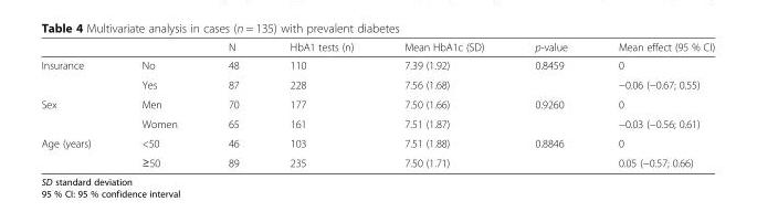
<table><thead><tr><td></td><td></td><td>N</td><td>HbA1 tests (n)</td><td>Mean HbA1c (SD)</td><td>p-value</td><td>Mean effect (95 % CI)</td></tr></thead><tbody><tr><td rowspan="2">Insurance</td><td>No</td><td>48</td><td>110</td><td>7.39 (1.92)</td><td rowspan="2">0.8459</td><td>0</td></tr><tr><td>Yes</td><td>87</td><td>228</td><td>7.56 (1.68)</td><td>−0.06 (−0.67; 0.55)</td></tr><tr><td rowspan="2">Sex</td><td>Men</td><td>70</td><td>177</td><td>7.50 (1.66)</td><td rowspan="2">0.9260</td><td>0</td></tr><tr><td>Women</td><td>65</td><td>161</td><td>7.51 (1.87)</td><td>−0.03 (−0.56; 0.61)</td></tr><tr><td rowspan="2">Age (years)</td><td>&lt;50</td><td>46</td><td>103</td><td>7.51 (1.88)</td><td rowspan="2">0.8846</td><td>0</td></tr><tr><td>≥50</td><td>89</td><td>235</td><td>7.50 (1.71)</td><td>0.05 (−0.57; 0.66)</td></tr></tbody></table>